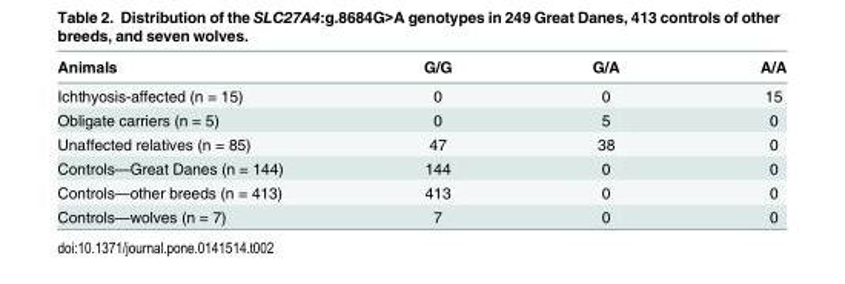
<table><thead><tr><td>Animals</td><td>G/G</td><td>G/A</td><td>A/A</td></tr></thead><tbody><tr><td>Ichthyosis-affected (n = 15)</td><td>0</td><td>0</td><td>15</td></tr><tr><td>Obligate carriers (n = 5)</td><td>0</td><td>5</td><td>0</td></tr><tr><td>Unaffected relatives (n = 85)</td><td>47</td><td>38</td><td>0</td></tr><tr><td>Controls—Great Danes (n = 144)</td><td>144</td><td>0</td><td>0</td></tr><tr><td>Controls—other breeds (n = 413)</td><td>413</td><td>0</td><td>0</td></tr><tr><td>Controls—wolves (n = 7)</td><td>7</td><td>0</td><td>0</td></tr></tbody></table>